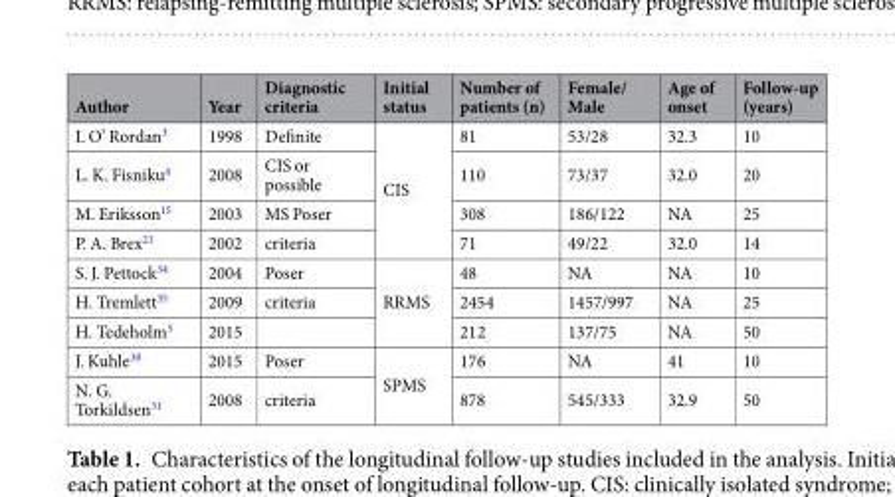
<table><thead><tr><td>Author</td><td>Year</td><td>Diagnostic criteria</td><td>Initial status</td><td>Number of patients (n)</td><td>Female/ Male</td><td>Age of onset</td><td>Follow-up (years)</td></tr></thead><tbody><tr><td>I. O’ Rordan<sup>3</sup></td><td>1998</td><td>Definite</td><td rowspan="4">CIS</td><td>81</td><td>53/28</td><td>32.3</td><td>10</td></tr><tr><td>L. K. Fisniku<sup>4</sup></td><td>2008</td><td>CIS or possible</td><td>110</td><td>73/37</td><td>32.0</td><td>20</td></tr><tr><td>M. Eriksson<sup>15</sup></td><td>2003</td><td>MS Poser</td><td>308</td><td>186/122</td><td>NA</td><td>25</td></tr><tr><td>P. A. Brex<sup>21</sup></td><td>2002</td><td>criteria</td><td>71</td><td>49/22</td><td>32.0</td><td>14</td></tr><tr><td>S. J. Pettock<sup>34</sup></td><td>2004</td><td>Poser</td><td rowspan="3">RRMS</td><td>48</td><td>NA</td><td>NA</td><td>10</td></tr><tr><td>H. Tremlett<sup>35</sup></td><td>2009</td><td>criteria</td><td>2454</td><td>1457/997</td><td>NA</td><td>25</td></tr><tr><td>H. Tedeholm<sup>5</sup></td><td>2015</td><td></td><td>212</td><td>137/75</td><td>NA</td><td>50</td></tr><tr><td>J. Kuhle<sup>30</sup></td><td>2015</td><td>Poser</td><td rowspan="2">SPMS</td><td>176</td><td>NA</td><td>41</td><td>10</td></tr><tr><td>N. G. Torkildsen<sup>31</sup></td><td>2008</td><td>criteria</td><td>878</td><td>545/333</td><td>32.9</td><td>50</td></tr></tbody></table>